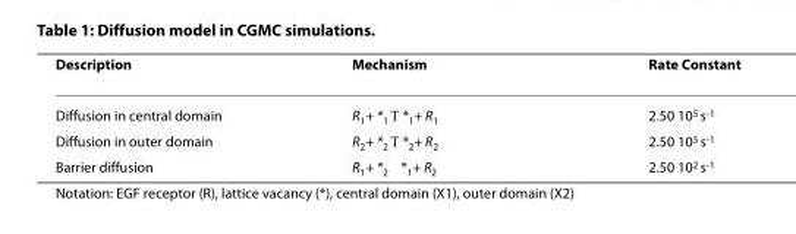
<table><thead><tr><td>Description</td><td>Mechanism</td><td>Rate Constant</td></tr></thead><tbody><tr><td>Diffusion in central domain</td><td>R<sub>1</sub>+ *<sub>1</sub> → *<sub>1</sub>+ R<sub>1</sub></td><td>2.50 10<sup>5</sup> s<sup>-1</sup></td></tr><tr><td>Diffusion in outer domain</td><td>R<sub>2</sub>+ *<sub>2</sub> → *<sub>2</sub>+ R<sub>2</sub></td><td>2.50 10<sup>5</sup> s<sup>-1</sup></td></tr><tr><td>Barrier diffusion</td><td>R<sub>1</sub>+ *<sub>2</sub> ↔ *<sub>1</sub>+ R<sub>2</sub></td><td>2.50 10<sup>2</sup> s<sup>-1</sup></td></tr></tbody></table>